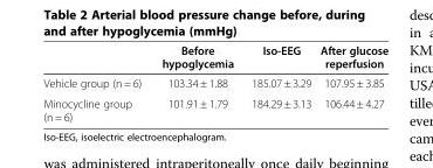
<table><thead><tr><td></td><td>Before hypoglycemia</td><td>Iso-EEG</td><td>After glucose reperfusion</td></tr></thead><tbody><tr><td>Vehicle group (n = 6)</td><td>103.34 ± 1.88</td><td>185.07 ± 3.29</td><td>107.95 ± 3.85</td></tr><tr><td>Minocycline group (n = 6)</td><td>101.91 ± 1.79</td><td>184.29 ± 3.13</td><td>106.44 ± 4.27</td></tr></tbody></table>